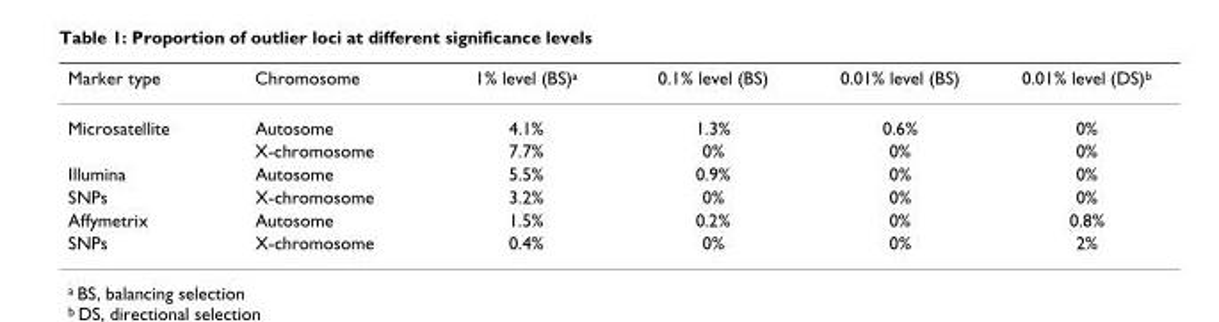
<table><thead><tr><td>Marker type</td><td>Chromosome</td><td>1% level (BS)a</td><td>0.1% level (BS)</td><td>0.01% level (BS)</td><td>0.01% level (DS)b</td></tr></thead><tbody><tr><td rowspan="2">Microsatellite</td><td>Autosome</td><td>4.1%</td><td>1.3%</td><td>0.6%</td><td>0%</td></tr><tr><td>X-chromosome</td><td>7.7%</td><td>0%</td><td>0%</td><td>0%</td></tr><tr><td>Illumina</td><td>Autosome</td><td>5.5%</td><td>0.9%</td><td>0%</td><td>0%</td></tr><tr><td>SNPs</td><td>X-chromosome</td><td>3.2%</td><td>0%</td><td>0%</td><td>0%</td></tr><tr><td>Affymetrix</td><td>Autosome</td><td>1.5%</td><td>0.2%</td><td>0%</td><td>0.8%</td></tr><tr><td>SNPs</td><td>X-chromosome</td><td>0.4%</td><td>0%</td><td>0%</td><td>2%</td></tr></tbody></table>